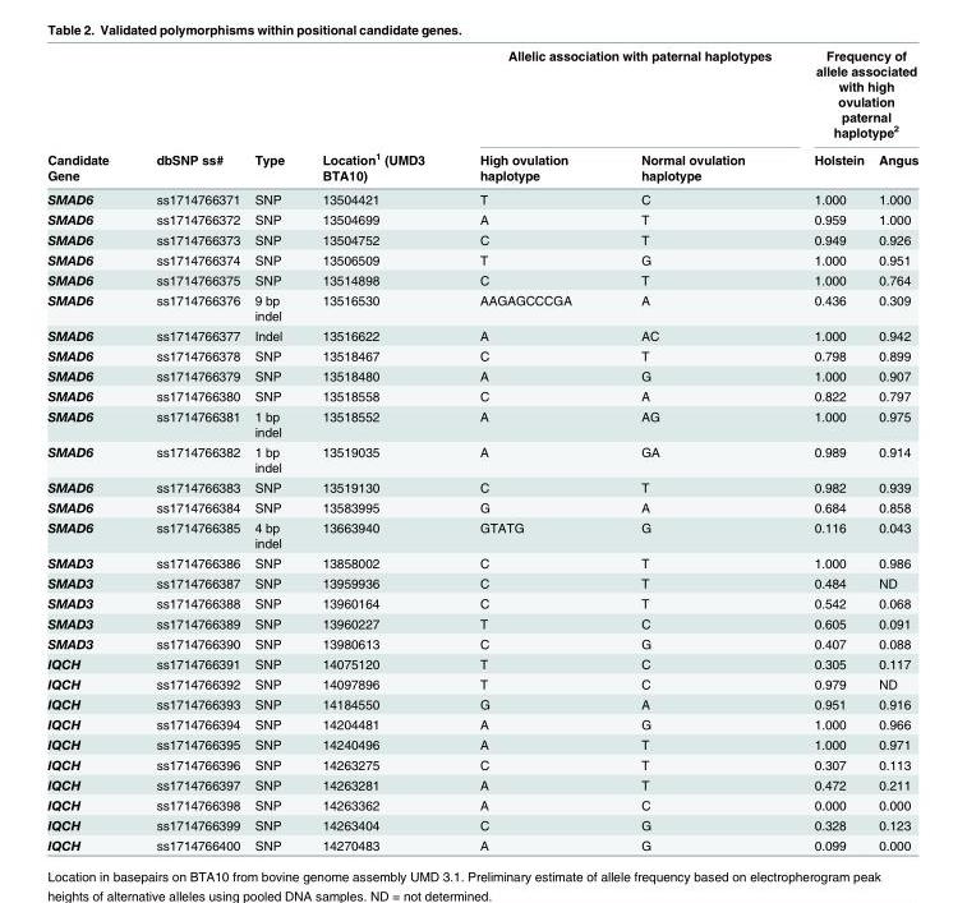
<table><thead><tr><td rowspan="2">Candidate Gene</td><td rowspan="2">dbSNP ss#</td><td rowspan="2">Type</td><td rowspan="2">Location<sup>1</sup> (UMD3 BTA10)</td><td colspan="2">Allelic association with paternal haplotypes</td><td colspan="2">Frequency of allele associated with high ovulation paternal haplotype<sup>2</sup></td></tr><tr><td>High ovulation haplotype</td><td>Normal ovulation haplotype</td><td>Holstein</td><td>Angus</td></tr></thead><tbody><tr><td>SMAD6</td><td>ss1714766371</td><td>SNP</td><td>13504421</td><td>T</td><td>C</td><td>1.000</td><td>1.000</td></tr><tr><td>SMAD6</td><td>ss1714766372</td><td>SNP</td><td>13504699</td><td>A</td><td>T</td><td>0.959</td><td>1.000</td></tr><tr><td>SMAD6</td><td>ss1714766373</td><td>SNP</td><td>13504752</td><td>C</td><td>T</td><td>0.949</td><td>0.926</td></tr><tr><td>SMAD6</td><td>ss1714766374</td><td>SNP</td><td>13506509</td><td>T</td><td>G</td><td>1.000</td><td>0.951</td></tr><tr><td>SMAD6</td><td>ss1714766375</td><td>SNP</td><td>13514898</td><td>C</td><td>T</td><td>1.000</td><td>0.764</td></tr><tr><td>SMAD6</td><td>ss1714766376</td><td>9 bp indel</td><td>13516530</td><td>AAGAGCCCGA</td><td>A</td><td>0.436</td><td>0.309</td></tr><tr><td>SMAD6</td><td>ss1714766377</td><td>Indel</td><td>13516622</td><td>A</td><td>AC</td><td>1.000</td><td>0.942</td></tr><tr><td>SMAD6</td><td>ss1714766378</td><td>SNP</td><td>13518467</td><td>C</td><td>T</td><td>0.798</td><td>0.899</td></tr><tr><td>SMAD6</td><td>ss1714766379</td><td>SNP</td><td>13518480</td><td>A</td><td>G</td><td>1.000</td><td>0.907</td></tr><tr><td>SMAD6</td><td>ss1714766380</td><td>SNP</td><td>13518558</td><td>C</td><td>A</td><td>0.822</td><td>0.797</td></tr><tr><td>SMAD6</td><td>ss1714766381</td><td>1 bp indel</td><td>13518552</td><td>A</td><td>AG</td><td>1.000</td><td>0.975</td></tr><tr><td>SMAD6</td><td>ss1714766382</td><td>1 bp indel</td><td>13519035</td><td>A</td><td>GA</td><td>0.989</td><td>0.914</td></tr><tr><td>SMAD6</td><td>ss1714766383</td><td>SNP</td><td>13519130</td><td>C</td><td>T</td><td>0.982</td><td>0.939</td></tr><tr><td>SMAD6</td><td>ss1714766384</td><td>SNP</td><td>13583995</td><td>G</td><td>A</td><td>0.684</td><td>0.858</td></tr><tr><td>SMAD6</td><td>ss1714766385</td><td>4 bp indel</td><td>13663940</td><td>GTATG</td><td>G</td><td>0.116</td><td>0.043</td></tr><tr><td>SMAD3</td><td>ss1714766386</td><td>SNP</td><td>13858002</td><td>C</td><td>T</td><td>1.000</td><td>0.986</td></tr><tr><td>SMAD3</td><td>ss1714766387</td><td>SNP</td><td>13959936</td><td>C</td><td>T</td><td>0.484</td><td>ND</td></tr><tr><td>SMAD3</td><td>ss1714766388</td><td>SNP</td><td>13960164</td><td>C</td><td>T</td><td>0.542</td><td>0.068</td></tr><tr><td>SMAD3</td><td>ss1714766389</td><td>SNP</td><td>13960227</td><td>T</td><td>C</td><td>0.605</td><td>0.091</td></tr><tr><td>SMAD3</td><td>ss1714766390</td><td>SNP</td><td>13980613</td><td>C</td><td>G</td><td>0.407</td><td>0.088</td></tr><tr><td>IQCH</td><td>ss1714766391</td><td>SNP</td><td>14075120</td><td>T</td><td>C</td><td>0.305</td><td>0.117</td></tr><tr><td>IQCH</td><td>ss1714766392</td><td>SNP</td><td>14097896</td><td>T</td><td>C</td><td>0.979</td><td>ND</td></tr><tr><td>IQCH</td><td>ss1714766393</td><td>SNP</td><td>14184550</td><td>G</td><td>A</td><td>0.951</td><td>0.916</td></tr><tr><td>IQCH</td><td>ss1714766394</td><td>SNP</td><td>14204481</td><td>A</td><td>G</td><td>1.000</td><td>0.966</td></tr><tr><td>IQCH</td><td>ss1714766395</td><td>SNP</td><td>14240496</td><td>A</td><td>T</td><td>1.000</td><td>0.971</td></tr><tr><td>IQCH</td><td>ss1714766396</td><td>SNP</td><td>14263275</td><td>C</td><td>T</td><td>0.307</td><td>0.113</td></tr><tr><td>IQCH</td><td>ss1714766397</td><td>SNP</td><td>14263281</td><td>A</td><td>T</td><td>0.472</td><td>0.211</td></tr><tr><td>IQCH</td><td>ss1714766398</td><td>SNP</td><td>14263362</td><td>A</td><td>C</td><td>0.000</td><td>0.000</td></tr><tr><td>IQCH</td><td>ss1714766399</td><td>SNP</td><td>14263404</td><td>C</td><td>G</td><td>0.328</td><td>0.123</td></tr><tr><td>IQCH</td><td>ss1714766400</td><td>SNP</td><td>14270483</td><td>A</td><td>G</td><td>0.099</td><td>0.000</td></tr></tbody></table>